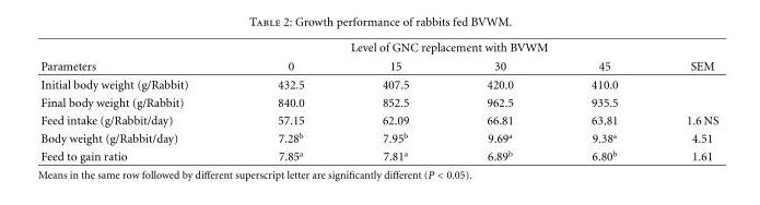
<table><thead><tr><td rowspan="2">Parameters</td><td colspan="4">Level of GNC replacement with BVWM</td><td rowspan="2">SEM</td></tr><tr><td>0</td><td>15</td><td>30</td><td>45</td></tr></thead><tbody><tr><td>Initial body weight (g/Rabbit)</td><td>432.5</td><td>407.5</td><td>420.0</td><td>410.0</td><td></td></tr><tr><td>Final body weight (g/Rabbit)</td><td>840.0</td><td>852.5</td><td>962.5</td><td>935.5</td><td></td></tr><tr><td>Feed intake (g/Rabbit/day)</td><td>57.15</td><td>62.09</td><td>66.81</td><td>63.81</td><td>1.6 NS</td></tr><tr><td>Body weight (g/Rabbit/day)</td><td>7.28<sup>b</sup></td><td>7.95<sup>b</sup></td><td>9.69<sup>a</sup></td><td>9.38<sup>a</sup></td><td>4.51</td></tr><tr><td>Feed to gain ratio</td><td>7.85<sup>a</sup></td><td>7.81<sup>a</sup></td><td>6.89<sup>b</sup></td><td>6.80<sup>b</sup></td><td>1.61</td></tr></tbody></table>